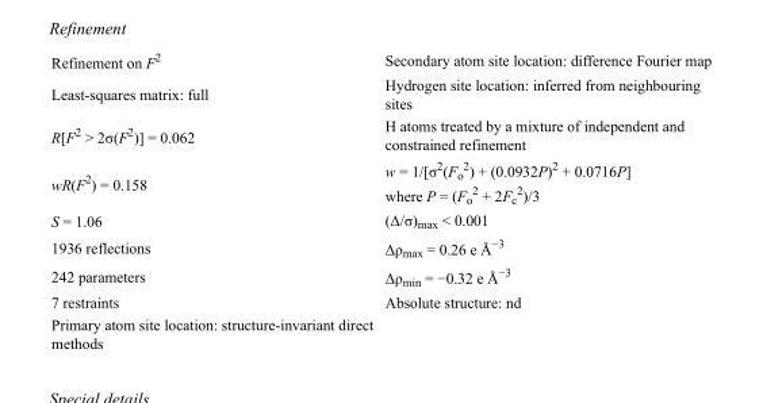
<table><tbody><tr><td>Refinement on F<sup>2</sup></td><td>Secondary atom site location: difference Fourier map</td></tr><tr><td>Least-squares matrix: full</td><td>Hydrogen site location: inferred from neighbouring sites</td></tr><tr><td>R[F<sup>2</sup> &gt; 2σ(F<sup>2</sup>)] = 0.062</td><td>H atoms treated by a mixture of independent and constrained refinement</td></tr><tr><td>wR(F<sup>2</sup>) = 0.158</td><td>w = 1/[σ<sup>2</sup>(F<sub>o</sub> <sup>2</sup>) + (0.0932P)<sup>2</sup> + 0.0716P] where P = (F<sub>o</sub> <sup>2</sup> + 2F<sub>c</sub> <sup>2</sup>)/3</td></tr><tr><td>S = 1.06</td><td>(Δ/σ)<sub>max</sub> &lt; 0.001</td></tr><tr><td>1936 reflections</td><td>Δρ<sub>max</sub> = 0.26 e Å<sup>−3</sup></td></tr><tr><td>242 parameters</td><td>Δρ<sub>min</sub> = −0.32 e Å<sup>−3</sup></td></tr><tr><td>7 restraints</td><td>Absolute structure: nd</td></tr><tr><td>Primary atom site location: structure-invariant direct methods</td><td></td></tr></tbody></table>